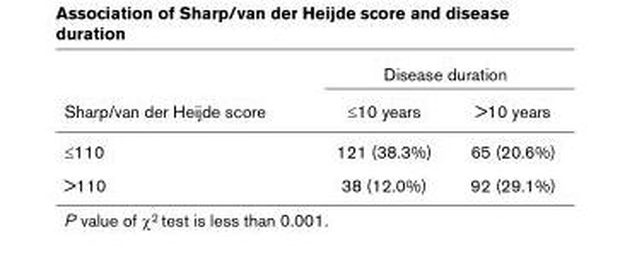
<table><thead><tr><td rowspan="2">Sharp/van der Heijde score</td><td colspan="2">Disease duration</td></tr><tr><td>≤10 years</td><td>&gt;10 years</td></tr></thead><tbody><tr><td>≤110</td><td>121 (38.3%)</td><td>65 (20.6%)</td></tr><tr><td>&gt;110</td><td>38 (12.0%)</td><td>92 (29.1%)</td></tr></tbody></table>